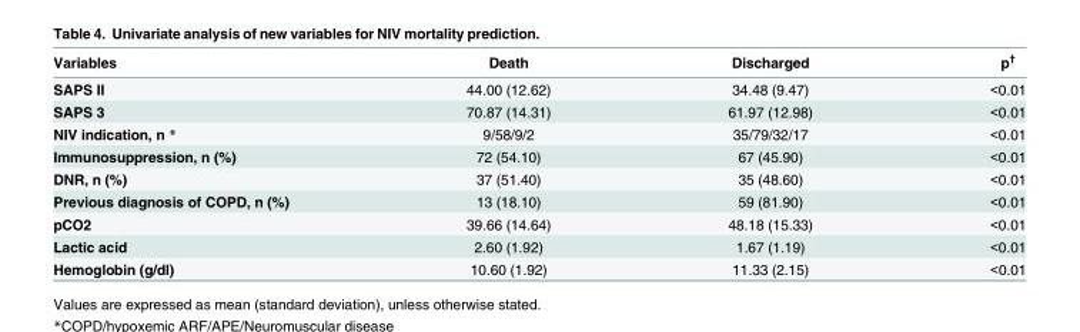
<table><thead><tr><td>Variables</td><td>Death</td><td>Discharged</td><td>p<sup>†</sup></td></tr></thead><tbody><tr><td>SAPS II</td><td>44.00 (12.62)</td><td>34.48 (9.47)</td><td>&lt;0.01</td></tr><tr><td>SAPS 3</td><td>70.87 (14.31)</td><td>61.97 (12.98)</td><td>&lt;0.01</td></tr><tr><td>NIV indication, n *</td><td>9/58/9/2</td><td>35/79/32/17</td><td>&lt;0.01</td></tr><tr><td>Immunosuppression, n (%)</td><td>72 (54.10)</td><td>67 (45.90)</td><td>&lt;0.01</td></tr><tr><td>DNR, n (%)</td><td>37 (51.40)</td><td>35 (48.60)</td><td>&lt;0.01</td></tr><tr><td>Previous diagnosis of COPD, n (%)</td><td>13 (18.10)</td><td>59 (81.90)</td><td>&lt;0.01</td></tr><tr><td>pCO2</td><td>39.66 (14.64)</td><td>48.18 (15.33)</td><td>&lt;0.01</td></tr><tr><td>Lactic acid</td><td>2.60 (1.92)</td><td>1.67 (1.19)</td><td>&lt;0.01</td></tr><tr><td>Hemoglobin (g/dl)</td><td>10.60 (1.92)</td><td>11.33 (2.15)</td><td>&lt;0.01</td></tr></tbody></table>